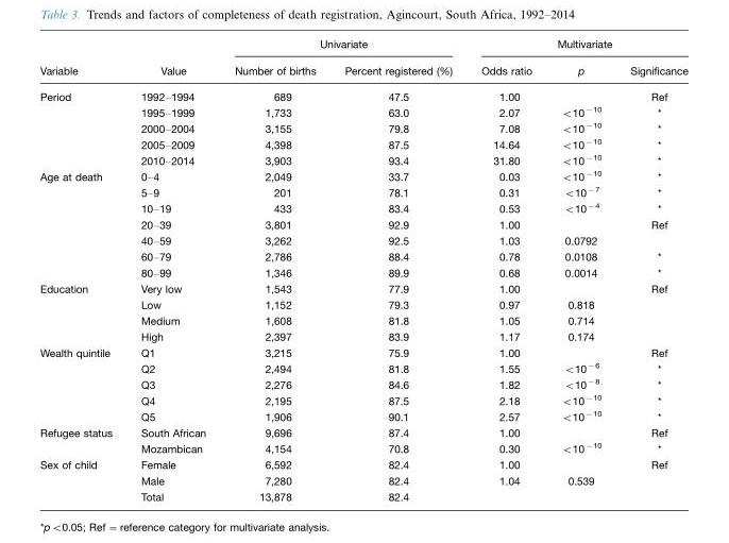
<table><thead><tr><td rowspan="2">Variable</td><td rowspan="2">Value</td><td colspan="2">Univariate</td><td colspan="3">Multivariate</td></tr><tr><td>Number of births</td><td>Percent registered (%)</td><td>Odds ratio</td><td>p</td><td>Significance</td></tr></thead><tbody><tr><td rowspan="5">Period</td><td>1992–1994</td><td>689</td><td>47.5</td><td>1.00</td><td></td><td>Ref</td></tr><tr><td>1995–1999</td><td>1,733</td><td>63.0</td><td>2.07</td><td>&lt;10<sup>−10</sup></td><td>*</td></tr><tr><td>2000–2004</td><td>3,155</td><td>79.8</td><td>7.08</td><td>&lt;10<sup>−10</sup></td><td>*</td></tr><tr><td>2005–2009</td><td>4,398</td><td>87.5</td><td>14.64</td><td>&lt;10<sup>−10</sup></td><td>*</td></tr><tr><td>2010–2014</td><td>3,903</td><td>93.4</td><td>31.80</td><td>&lt;10<sup>−10</sup></td><td>*</td></tr><tr><td rowspan="7">Age at death</td><td>0–4</td><td>2,049</td><td>33.7</td><td>0.03</td><td>&lt;10<sup>−10</sup></td><td>*</td></tr><tr><td>5–9</td><td>201</td><td>78.1</td><td>0.31</td><td>&lt;10<sup>−7</sup></td><td>*</td></tr><tr><td>10–19</td><td>433</td><td>83.4</td><td>0.53</td><td>&lt;10<sup>−4</sup></td><td>*</td></tr><tr><td>20–39</td><td>3,801</td><td>92.9</td><td>1.00</td><td></td><td>Ref</td></tr><tr><td>40–59</td><td>3,262</td><td>92.5</td><td>1.03</td><td>0.0792</td><td></td></tr><tr><td>60–79</td><td>2,786</td><td>88.4</td><td>0.78</td><td>0.0108</td><td>*</td></tr><tr><td>80–99</td><td>1,346</td><td>89.9</td><td>0.68</td><td>0.0014</td><td>*</td></tr><tr><td rowspan="4">Education</td><td>Very low</td><td>1,543</td><td>77.9</td><td>1.00</td><td></td><td>Ref</td></tr><tr><td>Low</td><td>1,152</td><td>79.3</td><td>0.97</td><td>0.818</td><td></td></tr><tr><td>Medium</td><td>1,608</td><td>81.8</td><td>1.05</td><td>0.714</td><td></td></tr><tr><td>High</td><td>2,397</td><td>83.9</td><td>1.17</td><td>0.174</td><td></td></tr><tr><td rowspan="5">Wealth quintile</td><td>Q1</td><td>3,215</td><td>75.9</td><td>1.00</td><td></td><td>Ref</td></tr><tr><td>Q2</td><td>2,494</td><td>81.8</td><td>1.55</td><td>&lt;10<sup>−6</sup></td><td>*</td></tr><tr><td>Q3</td><td>2,276</td><td>84.6</td><td>1.82</td><td>&lt;10<sup>−8</sup></td><td>*</td></tr><tr><td>Q4</td><td>2,195</td><td>87.5</td><td>2.18</td><td>&lt;10<sup>−10</sup></td><td>*</td></tr><tr><td>Q5</td><td>1,906</td><td>90.1</td><td>2.57</td><td>&lt;10<sup>−10</sup></td><td>*</td></tr><tr><td rowspan="2">Refugee status</td><td>South African</td><td>9,696</td><td>87.4</td><td>1.00</td><td></td><td>Ref</td></tr><tr><td>Mozambican</td><td>4,154</td><td>70.8</td><td>0.30</td><td>&lt;10<sup>−10</sup></td><td>*</td></tr><tr><td rowspan="3">Sex of child</td><td>Female</td><td>6,592</td><td>82.4</td><td>1.00</td><td></td><td>Ref</td></tr><tr><td>Male</td><td>7,280</td><td>82.4</td><td>1.04</td><td>0.539</td><td></td></tr><tr><td>Total</td><td>13,878</td><td>82.4</td><td></td><td></td><td></td></tr></tbody></table>